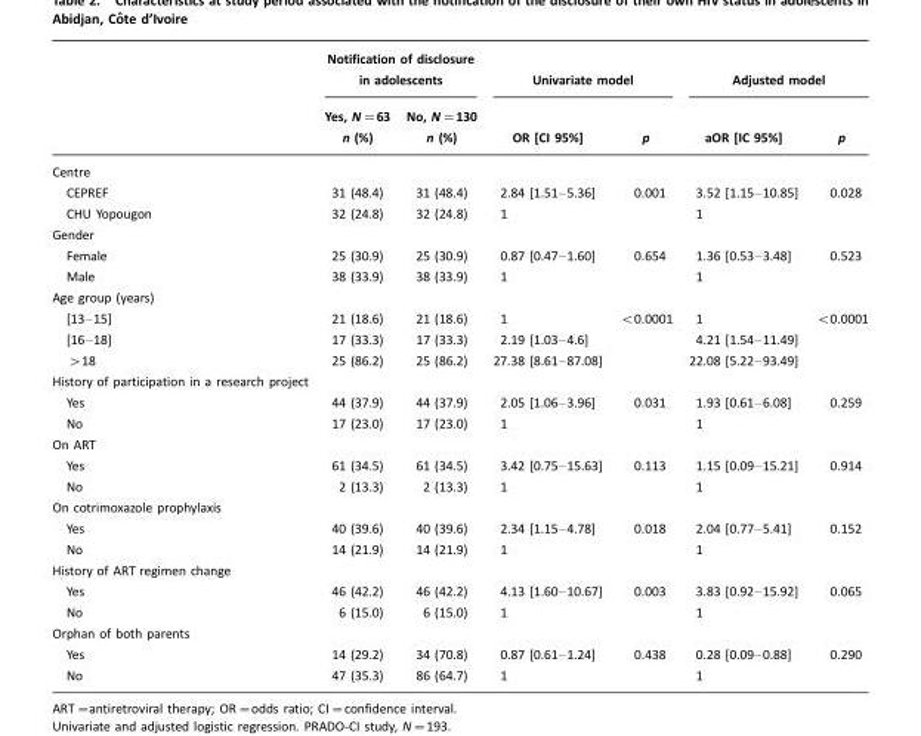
<table><thead><tr><td rowspan="2"></td><td colspan="2">Notification of disclosure in adolescents</td><td colspan="2">Univariate model</td><td colspan="2">Adjusted model</td></tr><tr><td>Yes, N=63 n (%)</td><td>No, N=130 n (%)</td><td>OR [CI 95%]</td><td>p</td><td>aOR [IC 95%]</td><td>p</td></tr></thead><tbody><tr><td colspan="7">Centre</td></tr><tr><td>CEPREF</td><td>31 (48.4)</td><td>31 (48.4)</td><td>2.84 [1.51–5.36]</td><td>0.001</td><td>3.52 [1.15–10.85]</td><td>0.028</td></tr><tr><td>CHU Yopougon</td><td>32 (24.8)</td><td>32 (24.8)</td><td>1</td><td></td><td>1</td><td></td></tr><tr><td colspan="7">Gender</td></tr><tr><td>Female</td><td>25 (30.9)</td><td>25 (30.9)</td><td>0.87 [0.47–1.60]</td><td>0.654</td><td>1.36 [0.53–3.48]</td><td>0.523</td></tr><tr><td>Male</td><td>38 (33.9)</td><td>38 (33.9)</td><td>1</td><td></td><td>1</td><td></td></tr><tr><td colspan="7">Age group (years)</td></tr><tr><td>[13–15]</td><td>21 (18.6)</td><td>21 (18.6)</td><td>1</td><td>&lt;0.0001</td><td>1</td><td>&lt;0.0001</td></tr><tr><td>[16–18]</td><td>17 (33.3)</td><td>17 (33.3)</td><td>2.19 [1.03–4.6]</td><td></td><td>4.21 [1.54–11.49]</td><td></td></tr><tr><td>&gt;18</td><td>25 (86.2)</td><td>25 (86.2)</td><td>27.38 [8.61–87.08]</td><td></td><td>22.08 [5.22–93.49]</td><td></td></tr><tr><td colspan="7">History of participation in a research project</td></tr><tr><td>Yes</td><td>44 (37.9)</td><td>44 (37.9)</td><td>2.05 [1.06–3.96]</td><td>0.031</td><td>1.93 [0.61–6.08]</td><td>0.259</td></tr><tr><td>No</td><td>17 (23.0)</td><td>17 (23.0)</td><td>1</td><td></td><td>1</td><td></td></tr><tr><td colspan="7">On ART</td></tr><tr><td>Yes</td><td>61 (34.5)</td><td>61 (34.5)</td><td>3.42 [0.75–15.63]</td><td>0.113</td><td>1.15 [0.09–15.21]</td><td>0.914</td></tr><tr><td>No</td><td>2 (13.3)</td><td>2 (13.3)</td><td>1</td><td></td><td>1</td><td></td></tr><tr><td colspan="7">On cotrimoxazole prophylaxis</td></tr><tr><td>Yes</td><td>40 (39.6)</td><td>40 (39.6)</td><td>2.34 [1.15–4.78]</td><td>0.018</td><td>2.04 [0.77–5.41]</td><td>0.152</td></tr><tr><td>No</td><td>14 (21.9)</td><td>14 (21.9)</td><td>1</td><td></td><td>1</td><td></td></tr><tr><td colspan="7">History of ART regimen change</td></tr><tr><td>Yes</td><td>46 (42.2)</td><td>46 (42.2)</td><td>4.13 [1.60–10.67]</td><td>0.003</td><td>3.83 [0.92–15.92]</td><td>0.065</td></tr><tr><td>No</td><td>6 (15.0)</td><td>6 (15.0)</td><td>1</td><td></td><td>1</td><td></td></tr><tr><td colspan="7">Orphan of both parents</td></tr><tr><td>Yes</td><td>14 (29.2)</td><td>34 (70.8)</td><td>0.87 [0.61–1.24]</td><td>0.438</td><td>0.28 [0.09–0.88]</td><td>0.290</td></tr><tr><td>No</td><td>47 (35.3)</td><td>86 (64.7)</td><td>1</td><td></td><td>1</td><td></td></tr></tbody></table>